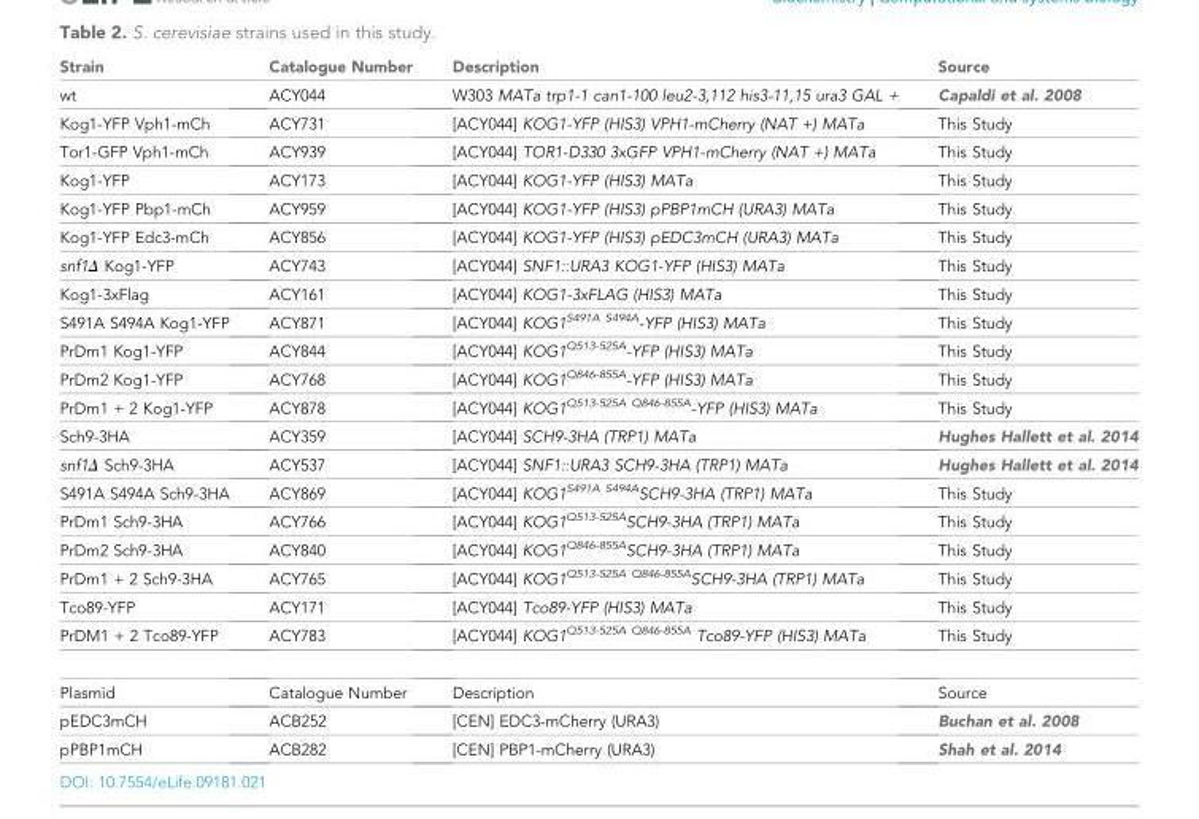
<table><thead><tr><td>Strain</td><td>Catalogue Number</td><td>Description</td><td>Source</td></tr></thead><tbody><tr><td>wt</td><td>ACY044</td><td>W303 MATa trp1-1 can1-100 leu2-3,112 his3-11,15 ura3 GAL +</td><td>Capaldi et al. 2008</td></tr><tr><td>Kog1-YFP Vph1-mCh</td><td>ACY731</td><td>[ACY044] KOG1-YFP (HIS3) VPH1-mCherry (NAT +) MATa</td><td>This Study</td></tr><tr><td>Tor1-GFP Vph1-mCh</td><td>ACY939</td><td>[ACY044] TOR1-D330 3xGFP VPH1-mCherry (NAT +) MATa</td><td>This Study</td></tr><tr><td>Kog1-YFP</td><td>ACY173</td><td>[ACY044] KOG1-YFP (HIS3) MATa</td><td>This Study</td></tr><tr><td>Kog1-YFP Pbp1-mCh</td><td>ACY959</td><td>[ACY044] KOG1-YFP (HIS3) pPBP1mCH (URA3) MATa</td><td>This Study</td></tr><tr><td>Kog1-YFP Edc3-mCh</td><td>ACY856</td><td>[ACY044] KOG1-YFP (HIS3) pEDC3mCH (URA3) MATa</td><td>This Study</td></tr><tr><td>snf1Δ Kog1-YFP</td><td>ACY743</td><td>[ACY044] SNF1::URA3 KOG1-YFP (HIS3) MATa</td><td>This Study</td></tr><tr><td>Kog1-3xFlag</td><td>ACY161</td><td>[ACY044] KOG1-3xFLAG (HIS3) MATa</td><td>This Study</td></tr><tr><td>S491A S494A Kog1-YFP</td><td>ACY871</td><td>[ACY044] KOG1<sup>S491A S494A</sup>-YFP (HIS3) MATa</td><td>This Study</td></tr><tr><td>PrDm1 Kog1-YFP</td><td>ACY844</td><td>[ACY044] KOG1<sup>Q513-525A</sup>-YFP (HIS3) MATa</td><td>This Study</td></tr><tr><td>PrDm2 Kog1-YFP</td><td>ACY768</td><td>[ACY044] KOG1<sup>Q846-855A</sup>-YFP (HIS3) MATa</td><td>This Study</td></tr><tr><td>PrDm1 + 2 Kog1-YFP</td><td>ACY878</td><td>[ACY044] KOG1<sup>Q513-525A Q846-855A</sup>-YFP (HIS3) MATa</td><td>This Study</td></tr><tr><td>Sch9-3HA</td><td>ACY359</td><td>[ACY044] SCH9-3HA (TRP1) MATa</td><td>Hughes Hallett et al. 2014</td></tr><tr><td>snf1Δ Sch9-3HA</td><td>ACY537</td><td>[ACY044] SNF1::URA3 SCH9-3HA (TRP1) MATa</td><td>Hughes Hallett et al. 2014</td></tr><tr><td>S491A S494A Sch9-3HA</td><td>ACY869</td><td>[ACY044] KOG1<sup>S491A S494A</sup>SCH9-3HA (TRP1) MATa</td><td>This Study</td></tr><tr><td>PrDm1 Sch9-3HA</td><td>ACY766</td><td>[ACY044] KOG1<sup>Q513-525A</sup>SCH9-3HA (TRP1) MATa</td><td>This Study</td></tr><tr><td>PrDm2 Sch9-3HA</td><td>ACY840</td><td>[ACY044] KOG1<sup>Q846-855A</sup>SCH9-3HA (TRP1) MATa</td><td>This Study</td></tr><tr><td>PrDm1 + 2 Sch9-3HA</td><td>ACY765</td><td>[ACY044] KOG1<sup>Q513-525A Q846-855A</sup>SCH9-3HA (TRP1) MATa</td><td>This Study</td></tr><tr><td>Tco89-YFP</td><td>ACY171</td><td>[ACY044] Tco89-YFP (HIS3) MATa</td><td>This Study</td></tr><tr><td>PrDM1 + 2 Tco89-YFP</td><td>ACY783</td><td>[ACY044] KOG1<sup>Q513-525A Q846-855A</sup> Tco89-YFP (HIS3) MATa</td><td>This Study</td></tr><tr><td>Plasmid</td><td>Catalogue Number</td><td>Description</td><td>Source</td></tr><tr><td>pEDC3mCH</td><td>ACB252</td><td>[CEN] EDC3-mCherry (URA3)</td><td>Buchan et al. 2008</td></tr><tr><td>pPBP1mCH</td><td>ACB282</td><td>[CEN] PBP1-mCherry (URA3)</td><td>Shah et al. 2014</td></tr></tbody></table>